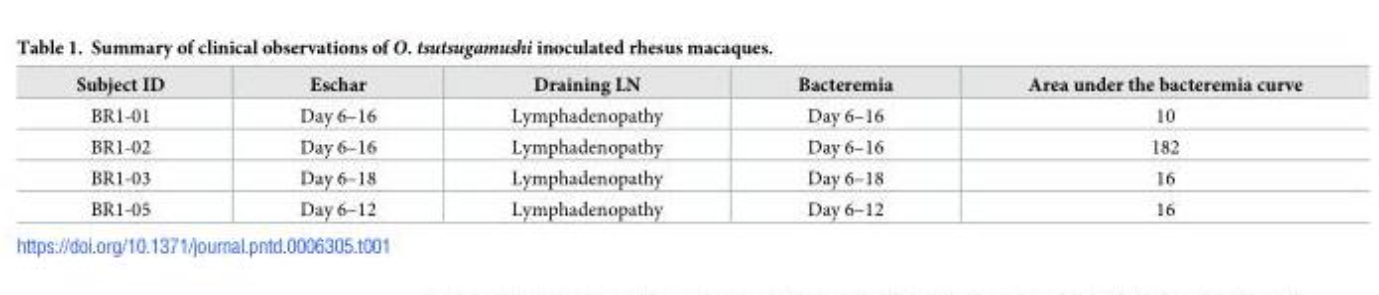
<table><thead><tr><td>Subject ID</td><td>Eschar</td><td>Draining LN</td><td>Bacteremia</td><td>Area under the bacteremia curve</td></tr></thead><tbody><tr><td>BR1-01</td><td>Day 6–16</td><td>Lymphadenopathy</td><td>Day 6–16</td><td>10</td></tr><tr><td>BR1-02</td><td>Day 6–16</td><td>Lymphadenopathy</td><td>Day 6–16</td><td>182</td></tr><tr><td>BR1-03</td><td>Day 6–18</td><td>Lymphadenopathy</td><td>Day 6–18</td><td>16</td></tr><tr><td>BR1-05</td><td>Day 6–12</td><td>Lymphadenopathy</td><td>Day 6–12</td><td>16</td></tr></tbody></table>